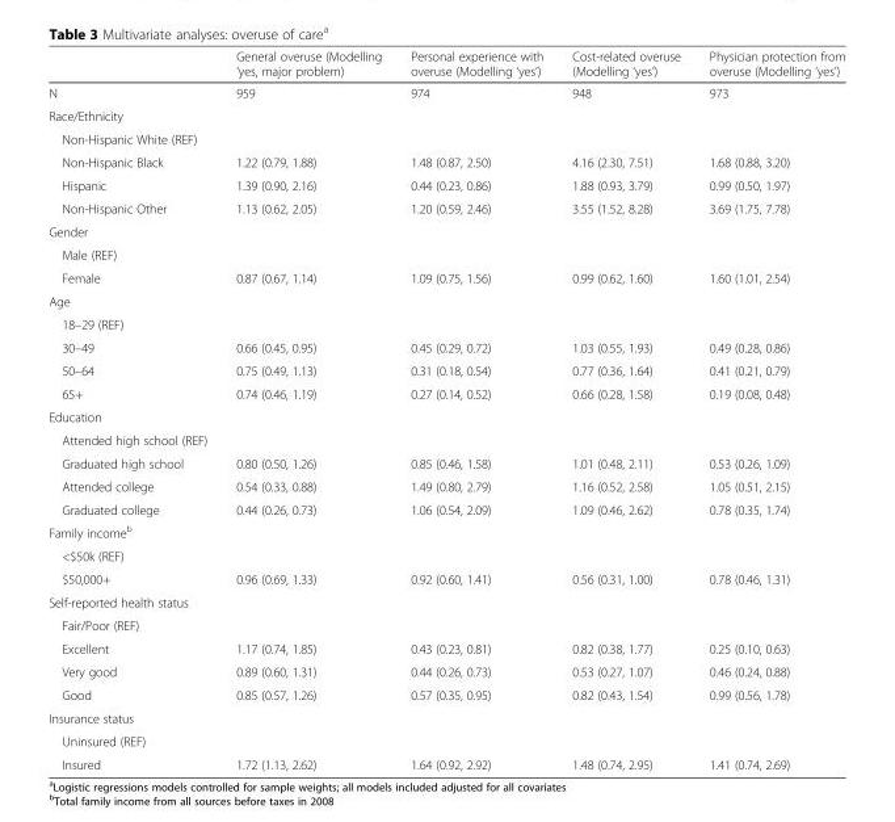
<table><thead><tr><td></td><td>General overuse (Modelling ‘yes, major problem)</td><td>Personal experience with overuse (Modelling ‘yes’)</td><td>Cost-related overuse (Modelling ‘yes’)</td><td>Physician protection from overuse (Modelling ‘yes’)</td></tr></thead><tbody><tr><td>N</td><td>959</td><td>974</td><td>948</td><td>973</td></tr><tr><td colspan="5">Race/Ethnicity</td></tr><tr><td colspan="5">Non-Hispanic White (REF)</td></tr><tr><td>Non-Hispanic Black</td><td>1.22 (0.79, 1.88)</td><td>1.48 (0.87, 2.50)</td><td>4.16 (2.30, 7.51)</td><td>1.68 (0.88, 3.20)</td></tr><tr><td>Hispanic</td><td>1.39 (0.90, 2.16)</td><td>0.44 (0.23, 0.86)</td><td>1.88 (0.93, 3.79)</td><td>0.99 (0.50, 1.97)</td></tr><tr><td>Non-Hispanic Other</td><td>1.13 (0.62, 2.05)</td><td>1.20 (0.59, 2.46)</td><td>3.55 (1.52, 8.28)</td><td>3.69 (1.75, 7.78)</td></tr><tr><td colspan="5">Gender</td></tr><tr><td colspan="5">Male (REF)</td></tr><tr><td>Female</td><td>0.87 (0.67, 1.14)</td><td>1.09 (0.75, 1.56)</td><td>0.99 (0.62, 1.60)</td><td>1.60 (1.01, 2.54)</td></tr><tr><td colspan="5">Age</td></tr><tr><td colspan="5">18–29 (REF)</td></tr><tr><td>30–49</td><td>0.66 (0.45, 0.95)</td><td>0.45 (0.29, 0.72)</td><td>1.03 (0.55, 1.93)</td><td>0.49 (0.28, 0.86)</td></tr><tr><td>50–64</td><td>0.75 (0.49, 1.13)</td><td>0.31 (0.18, 0.54)</td><td>0.77 (0.36, 1.64)</td><td>0.41 (0.21, 0.79)</td></tr><tr><td>65+</td><td>0.74 (0.46, 1.19)</td><td>0.27 (0.14, 0.52)</td><td>0.66 (0.28, 1.58)</td><td>0.19 (0.08, 0.48)</td></tr><tr><td colspan="5">Education</td></tr><tr><td colspan="5">Attended high school (REF)</td></tr><tr><td>Graduated high school</td><td>0.80 (0.50, 1.26)</td><td>0.85 (0.46, 1.58)</td><td>1.01 (0.48, 2.11)</td><td>0.53 (0.26, 1.09)</td></tr><tr><td>Attended college</td><td>0.54 (0.33, 0.88)</td><td>1.49 (0.80, 2.79)</td><td>1.16 (0.52, 2.58)</td><td>1.05 (0.51, 2.15)</td></tr><tr><td>Graduated college</td><td>0.44 (0.26, 0.73)</td><td>1.06 (0.54, 2.09)</td><td>1.09 (0.46, 2.62)</td><td>0.78 (0.35, 1.74)</td></tr><tr><td colspan="5">Family income<sup>b</sup></td></tr><tr><td colspan="5">&lt;$50k (REF)</td></tr><tr><td>$50,000+</td><td>0.96 (0.69, 1.33)</td><td>0.92 (0.60, 1.41)</td><td>0.56 (0.31, 1.00)</td><td>0.78 (0.46, 1.31)</td></tr><tr><td colspan="5">Self-reported health status</td></tr><tr><td colspan="5">Fair/Poor (REF)</td></tr><tr><td>Excellent</td><td>1.17 (0.74, 1.85)</td><td>0.43 (0.23, 0.81)</td><td>0.82 (0.38, 1.77)</td><td>0.25 (0.10, 0.63)</td></tr><tr><td>Very good</td><td>0.89 (0.60, 1.31)</td><td>0.44 (0.26, 0.73)</td><td>0.53 (0.27, 1.07)</td><td>0.46 (0.24, 0.88)</td></tr><tr><td>Good</td><td>0.85 (0.57, 1.26)</td><td>0.57 (0.35, 0.95)</td><td>0.82 (0.43, 1.54)</td><td>0.99 (0.56, 1.78)</td></tr><tr><td colspan="5">Insurance status</td></tr><tr><td colspan="5">Uninsured (REF)</td></tr><tr><td>Insured</td><td>1.72 (1.13, 2.62)</td><td>1.64 (0.92, 2.92)</td><td>1.48 (0.74, 2.95)</td><td>1.41 (0.74, 2.69)</td></tr></tbody></table>